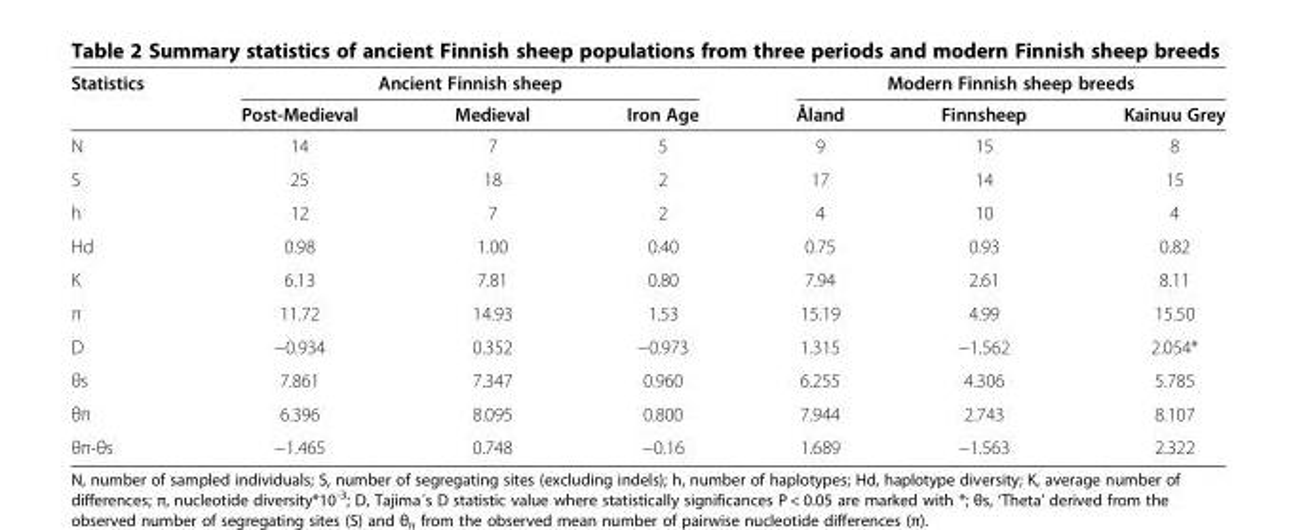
<table><thead><tr><td rowspan="2">Statistics</td><td colspan="3">Ancient Finnish sheep</td><td colspan="3">Modern Finnish sheep breeds</td></tr><tr><td>Post-Medieval</td><td>Medieval</td><td>Iron Age</td><td>Åland</td><td>Finnsheep</td><td>Kainuu Grey</td></tr></thead><tbody><tr><td>N</td><td>14</td><td>7</td><td>5</td><td>9</td><td>15</td><td>8</td></tr><tr><td>S</td><td>25</td><td>18</td><td>2</td><td>17</td><td>14</td><td>15</td></tr><tr><td>h</td><td>12</td><td>7</td><td>2</td><td>4</td><td>10</td><td>4</td></tr><tr><td>Hd</td><td>0.98</td><td>1.00</td><td>0.40</td><td>0.75</td><td>0.93</td><td>0.82</td></tr><tr><td>K</td><td>6.13</td><td>7.81</td><td>0.80</td><td>7.94</td><td>2.61</td><td>8.11</td></tr><tr><td>π</td><td>11.72</td><td>14.93</td><td>1.53</td><td>15.19</td><td>4.99</td><td>15.50</td></tr><tr><td>D</td><td>−0.934</td><td>0.352</td><td>−0.973</td><td>1.315</td><td>−1.562</td><td>2.054*</td></tr><tr><td>θs</td><td>7.861</td><td>7.347</td><td>0.960</td><td>6.255</td><td>4.306</td><td>5.785</td></tr><tr><td>θπ</td><td>6.396</td><td>8.095</td><td>0.800</td><td>7.944</td><td>2.743</td><td>8.107</td></tr><tr><td>θπ-θs</td><td>−1.465</td><td>0.748</td><td>−0.16</td><td>1.689</td><td>−1.563</td><td>2.322</td></tr></tbody></table>